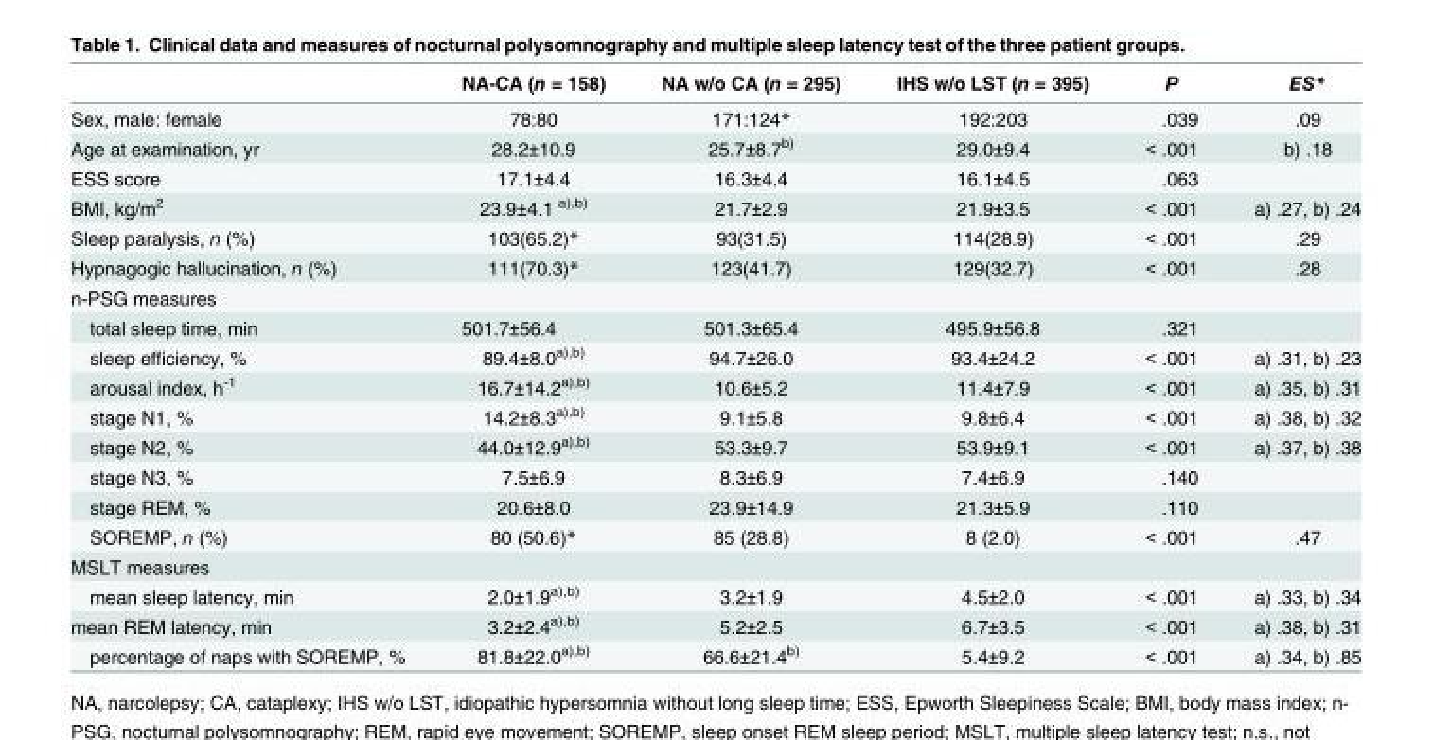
<table><thead><tr><td></td><td>NA-CA (n = 158)</td><td>NA w/o CA (n = 295)</td><td>IHS w/o LST (n = 395)</td><td>P</td><td>ES*</td></tr></thead><tbody><tr><td>Sex, male: female</td><td>78:80</td><td>171:124*</td><td>192:203</td><td>.039</td><td>.09</td></tr><tr><td>Age at examination, yr</td><td>28.2±10.9</td><td>25.7±8.7<sup>b)</sup></td><td>29.0±9.4</td><td>&lt; .001</td><td>b) .18</td></tr><tr><td>ESS score</td><td>17.1±4.4</td><td>16.3±4.4</td><td>16.1±4.5</td><td>.063</td><td></td></tr><tr><td>BMI, kg/m<sup>2</sup></td><td>23.9±4.1 <sup>a),b)</sup></td><td>21.7±2.9</td><td>21.9±3.5</td><td>&lt; .001</td><td>a) .27, b) .24</td></tr><tr><td>Sleep paralysis, n (%)</td><td>103(65.2)*</td><td>93(31.5)</td><td>114(28.9)</td><td>&lt; .001</td><td>.29</td></tr><tr><td>Hypnagogic hallucination, n (%)</td><td>111(70.3)*</td><td>123(41.7)</td><td>129(32.7)</td><td>&lt; .001</td><td>.28</td></tr><tr><td colspan="6">n-PSG measures</td></tr><tr><td>total sleep time, min</td><td>501.7±56.4</td><td>501.3±65.4</td><td>495.9±56.8</td><td>.321</td><td></td></tr><tr><td>sleep efficiency, %</td><td>89.4±8.0<sup>a),b)</sup></td><td>94.7±26.0</td><td>93.4±24.2</td><td>&lt; .001</td><td>a) .31, b) .23</td></tr><tr><td>arousal index, h<sup>-1</sup></td><td>16.7±14.2<sup>a),b)</sup></td><td>10.6±5.2</td><td>11.4±7.9</td><td>&lt; .001</td><td>a) .35, b) .31</td></tr><tr><td>stage N1, %</td><td>14.2±8.3<sup>a),b)</sup></td><td>9.1±5.8</td><td>9.8±6.4</td><td>&lt; .001</td><td>a) .38, b) .32</td></tr><tr><td>stage N2, %</td><td>44.0±12.9<sup>a),b)</sup></td><td>53.3±9.7</td><td>53.9±9.1</td><td>&lt; .001</td><td>a) .37, b) .38</td></tr><tr><td>stage N3, %</td><td>7.5±6.9</td><td>8.3±6.9</td><td>7.4±6.9</td><td>.140</td><td></td></tr><tr><td>stage REM, %</td><td>20.6±8.0</td><td>23.9±14.9</td><td>21.3±5.9</td><td>.110</td><td></td></tr><tr><td>SOREMP, n (%)</td><td>80 (50.6)*</td><td>85 (28.8)</td><td>8 (2.0)</td><td>&lt; .001</td><td>.47</td></tr><tr><td colspan="6">MSLT measures</td></tr><tr><td>mean sleep latency, min</td><td>2.0±1.9<sup>a),b)</sup></td><td>3.2±1.9</td><td>4.5±2.0</td><td>&lt; .001</td><td>a) .33, b) .34</td></tr><tr><td>mean REM latency, min</td><td>3.2±2.4<sup>a),b)</sup></td><td>5.2±2.5</td><td>6.7±3.5</td><td>&lt; .001</td><td>a) .38, b) .31</td></tr><tr><td>percentage of naps with SOREMP, %</td><td>81.8±22.0<sup>a),b)</sup></td><td>66.6±21.4<sup>b)</sup></td><td>5.4±9.2</td><td>&lt; .001</td><td>a) .34, b) .85</td></tr></tbody></table>